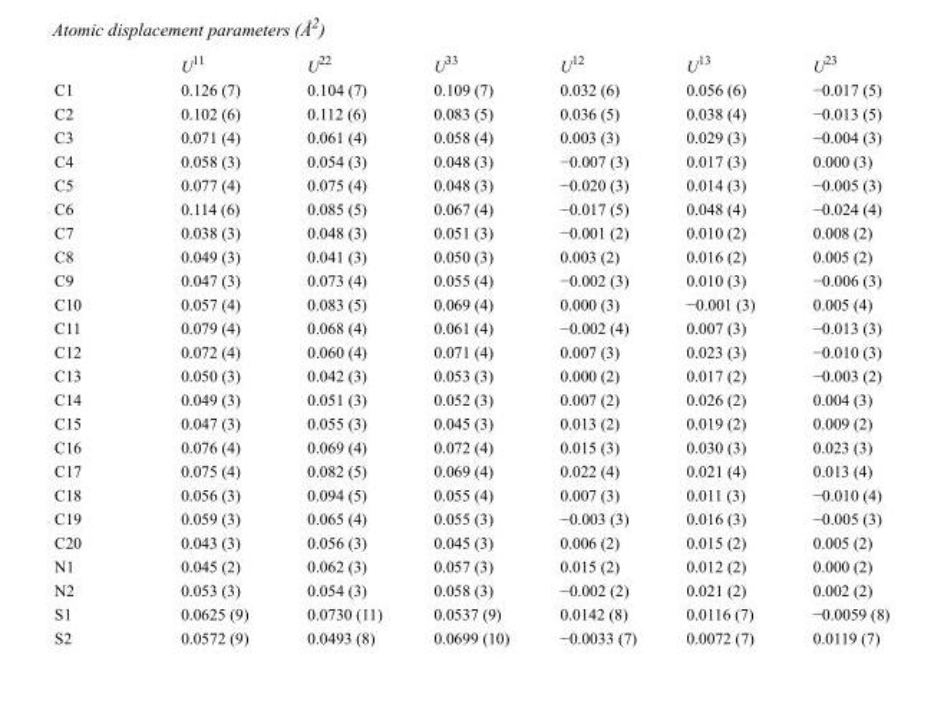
<table><thead><tr><td></td><td>U<sup>11</sup></td><td>U<sup>22</sup></td><td>U<sup>33</sup></td><td>U<sup>12</sup></td><td>U<sup>13</sup></td><td>U<sup>23</sup></td></tr></thead><tbody><tr><td>C1</td><td>0.126 (7)</td><td>0.104 (7)</td><td>0.109 (7)</td><td>0.032 (6)</td><td>0.056 (6)</td><td>−0.017 (5)</td></tr><tr><td>C2</td><td>0.102 (6)</td><td>0.112 (6)</td><td>0.083 (5)</td><td>0.036 (5)</td><td>0.038 (4)</td><td>−0.013 (5)</td></tr><tr><td>C3</td><td>0.071 (4)</td><td>0.061 (4)</td><td>0.058 (4)</td><td>0.003 (3)</td><td>0.029 (3)</td><td>−0.004 (3)</td></tr><tr><td>C4</td><td>0.058 (3)</td><td>0.054 (3)</td><td>0.048 (3)</td><td>−0.007 (3)</td><td>0.017 (3)</td><td>0.000 (3)</td></tr><tr><td>C5</td><td>0.077 (4)</td><td>0.075 (4)</td><td>0.048 (3)</td><td>−0.020 (3)</td><td>0.014 (3)</td><td>−0.005 (3)</td></tr><tr><td>C6</td><td>0.114 (6)</td><td>0.085 (5)</td><td>0.067 (4)</td><td>−0.017 (5)</td><td>0.048 (4)</td><td>−0.024 (4)</td></tr><tr><td>C7</td><td>0.038 (3)</td><td>0.048 (3)</td><td>0.051 (3)</td><td>−0.001 (2)</td><td>0.010 (2)</td><td>0.008 (2)</td></tr><tr><td>C8</td><td>0.049 (3)</td><td>0.041 (3)</td><td>0.050 (3)</td><td>0.003 (2)</td><td>0.016 (2)</td><td>0.005 (2)</td></tr><tr><td>C9</td><td>0.047 (3)</td><td>0.073 (4)</td><td>0.055 (4)</td><td>−0.002 (3)</td><td>0.010 (3)</td><td>−0.006 (3)</td></tr><tr><td>C10</td><td>0.057 (4)</td><td>0.083 (5)</td><td>0.069 (4)</td><td>0.000 (3)</td><td>−0.001 (3)</td><td>0.005 (4)</td></tr><tr><td>C11</td><td>0.079 (4)</td><td>0.068 (4)</td><td>0.061 (4)</td><td>−0.002 (4)</td><td>0.007 (3)</td><td>−0.013 (3)</td></tr><tr><td>C12</td><td>0.072 (4)</td><td>0.060 (4)</td><td>0.071 (4)</td><td>0.007 (3)</td><td>0.023 (3)</td><td>−0.010 (3)</td></tr><tr><td>C13</td><td>0.050 (3)</td><td>0.042 (3)</td><td>0.053 (3)</td><td>0.000 (2)</td><td>0.017 (2)</td><td>−0.003 (2)</td></tr><tr><td>C14</td><td>0.049 (3)</td><td>0.051 (3)</td><td>0.052 (3)</td><td>0.007 (2)</td><td>0.026 (2)</td><td>0.004 (3)</td></tr><tr><td>C15</td><td>0.047 (3)</td><td>0.055 (3)</td><td>0.045 (3)</td><td>0.013 (2)</td><td>0.019 (2)</td><td>0.009 (2)</td></tr><tr><td>C16</td><td>0.076 (4)</td><td>0.069 (4)</td><td>0.072 (4)</td><td>0.015 (3)</td><td>0.030 (3)</td><td>0.023 (3)</td></tr><tr><td>C17</td><td>0.075 (4)</td><td>0.082 (5)</td><td>0.069 (4)</td><td>0.022 (4)</td><td>0.021 (4)</td><td>0.013 (4)</td></tr><tr><td>C18</td><td>0.056 (3)</td><td>0.094 (5)</td><td>0.055 (4)</td><td>0.007 (3)</td><td>0.011 (3)</td><td>−0.010 (4)</td></tr><tr><td>C19</td><td>0.059 (3)</td><td>0.065 (4)</td><td>0.055 (3)</td><td>−0.003 (3)</td><td>0.016 (3)</td><td>−0.005 (3)</td></tr><tr><td>C20</td><td>0.043 (3)</td><td>0.056 (3)</td><td>0.045 (3)</td><td>0.006 (2)</td><td>0.015 (2)</td><td>0.005 (2)</td></tr><tr><td>N1</td><td>0.045 (2)</td><td>0.062 (3)</td><td>0.057 (3)</td><td>0.015 (2)</td><td>0.012 (2)</td><td>0.000 (2)</td></tr><tr><td>N2</td><td>0.053 (3)</td><td>0.054 (3)</td><td>0.058 (3)</td><td>−0.002 (2)</td><td>0.021 (2)</td><td>0.002 (2)</td></tr><tr><td>S1</td><td>0.0625 (9)</td><td>0.0730 (11)</td><td>0.0537 (9)</td><td>0.0142 (8)</td><td>0.0116 (7)</td><td>−0.0059 (8)</td></tr><tr><td>S2</td><td>0.0572 (9)</td><td>0.0493 (8)</td><td>0.0699 (10)</td><td>−0.0033 (7)</td><td>0.0072 (7)</td><td>0.0119 (7)</td></tr></tbody></table>